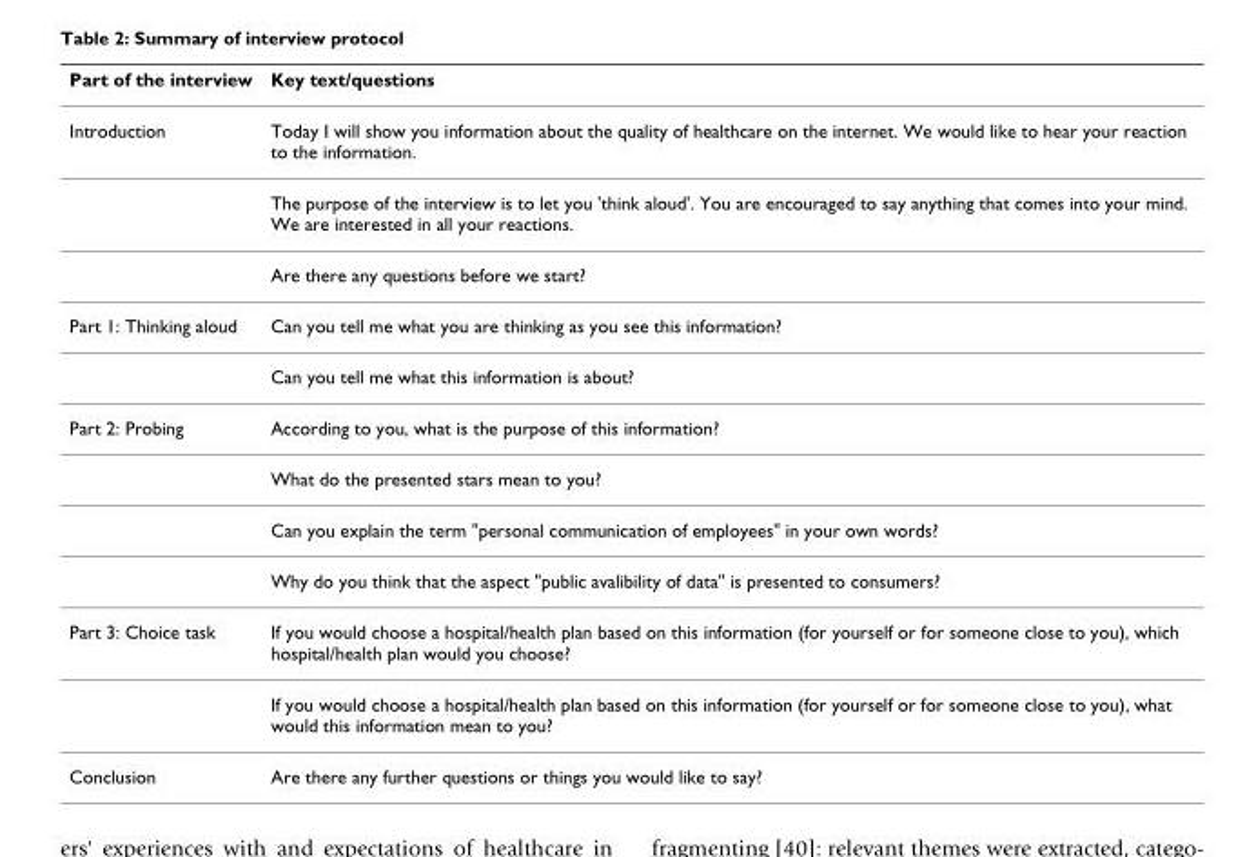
<table><thead><tr><td>Part of the interview</td><td>Key text/questions</td></tr></thead><tbody><tr><td rowspan="3">Introduction</td><td>Today I will show you information about the quality of healthcare on the internet. We would like to hear your reaction to the information.</td></tr><tr><td>The purpose of the interview is to let you &#x27;think aloud&#x27;. You are encouraged to say anything that comes into your mind. We are interested in all your reactions.</td></tr><tr><td>Are there any questions before we start?</td></tr><tr><td rowspan="2">Part 1: Thinking aloud</td><td>Can you tell me what you are thinking as you see this information?</td></tr><tr><td>Can you tell me what this information is about?</td></tr><tr><td rowspan="4">Part 2: Probing</td><td>According to you, what is the purpose of this information?</td></tr><tr><td>What do the presented stars mean to you?</td></tr><tr><td>Can you explain the term &quot;personal communication of employees&quot; in your own words?</td></tr><tr><td>Why do you think that the aspect &quot;public avalibility of data&quot; is presented to consumers?</td></tr><tr><td rowspan="2">Part 3: Choice task</td><td>If you would choose a hospital/health plan based on this information (for yourself or for someone close to you), which hospital/health plan would you choose?</td></tr><tr><td>If you would choose a hospital/health plan based on this information (for yourself or for someone close to you), what would this information mean to you?</td></tr><tr><td>Conclusion</td><td>Are there any further questions or things you would like to say?</td></tr></tbody></table>